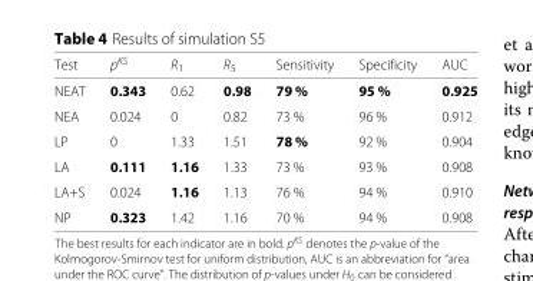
<table><thead><tr><td>Test</td><td>p<sup>KS</sup></td><td>R<sub>1</sub></td><td>R<sub>5</sub></td><td>Sensitivity</td><td>Specificity</td><td>AUC</td></tr></thead><tbody><tr><td>NEAT</td><td>0.343</td><td>0.62</td><td>0.98</td><td>79 %</td><td>95 %</td><td>0.925</td></tr><tr><td>NEA</td><td>0.024</td><td>0</td><td>0.82</td><td>73 %</td><td>96 %</td><td>0.912</td></tr><tr><td>LP</td><td>0</td><td>1.33</td><td>1.51</td><td>78 %</td><td>92 %</td><td>0.904</td></tr><tr><td>LA</td><td>0.111</td><td>1.16</td><td>1.33</td><td>73 %</td><td>93 %</td><td>0.908</td></tr><tr><td>LA+S</td><td>0.024</td><td>1.16</td><td>1.13</td><td>76 %</td><td>94 %</td><td>0.910</td></tr><tr><td>NP</td><td>0.323</td><td>1.42</td><td>1.16</td><td>70 %</td><td>94 %</td><td>0.908</td></tr></tbody></table>